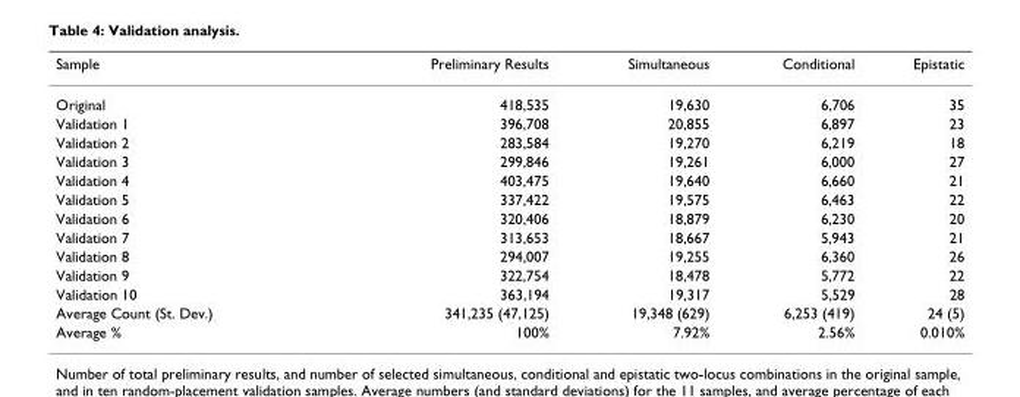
<table><thead><tr><td>Sample</td><td>Preliminary Results</td><td>Simultaneous</td><td>Conditional</td><td>Epistatic</td></tr></thead><tbody><tr><td>Original</td><td>418,535</td><td>19,630</td><td>6,706</td><td>35</td></tr><tr><td>Validation 1</td><td>396,708</td><td>20,855</td><td>6,897</td><td>23</td></tr><tr><td>Validation 2</td><td>283,584</td><td>19,270</td><td>6,219</td><td>18</td></tr><tr><td>Validation 3</td><td>299,846</td><td>19,261</td><td>6,000</td><td>27</td></tr><tr><td>Validation 4</td><td>403,475</td><td>19,640</td><td>6,660</td><td>21</td></tr><tr><td>Validation 5</td><td>337,422</td><td>19,575</td><td>6,463</td><td>22</td></tr><tr><td>Validation 6</td><td>320,406</td><td>18,879</td><td>6,230</td><td>20</td></tr><tr><td>Validation 7</td><td>313,653</td><td>18,667</td><td>5,943</td><td>21</td></tr><tr><td>Validation 8</td><td>294,007</td><td>19,255</td><td>6,360</td><td>26</td></tr><tr><td>Validation 9</td><td>322,754</td><td>18,478</td><td>5,772</td><td>22</td></tr><tr><td>Validation 10</td><td>363,194</td><td>19,317</td><td>5,529</td><td>28</td></tr><tr><td>Average Count (St. Dev.)</td><td>341,235 (47,125)</td><td>19,348 (629)</td><td>6,253 (419)</td><td>24 (5)</td></tr><tr><td>Average %</td><td>100%</td><td>7.92%</td><td>2.56%</td><td>0.010%</td></tr></tbody></table>